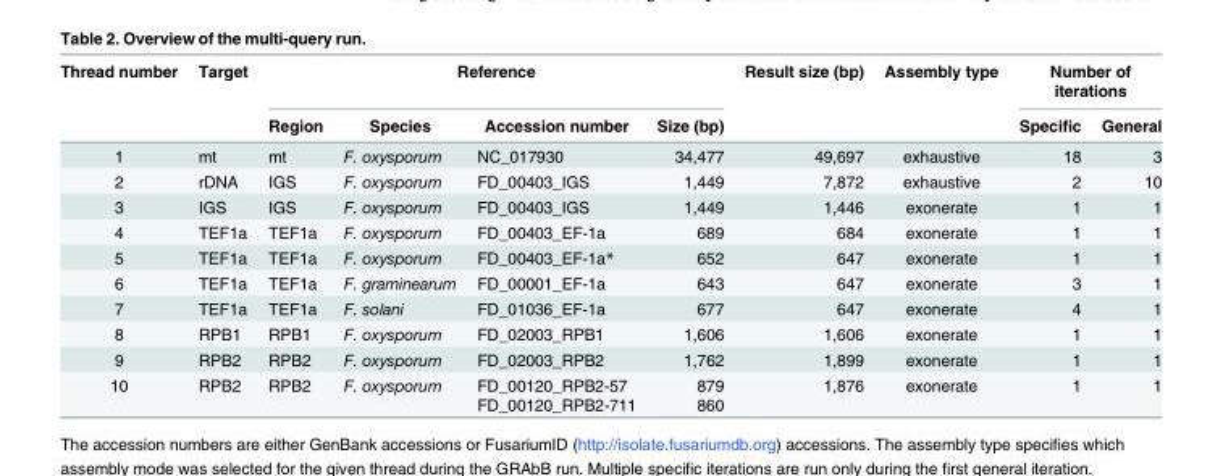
<table><thead><tr><td rowspan="2">Thread number</td><td rowspan="2">Target</td><td colspan="4">Reference</td><td rowspan="2">Result size (bp)</td><td rowspan="2">Assembly type</td><td colspan="2">Number of iterations</td></tr><tr><td>Region</td><td>Species</td><td>Accession number</td><td>Size (bp)</td><td>Specific</td><td>General</td></tr></thead><tbody><tr><td>1</td><td>mt</td><td>mt</td><td>F. oxysporum</td><td>NC_017930</td><td>34,477</td><td>49,697</td><td>exhaustive</td><td>18</td><td>3</td></tr><tr><td>2</td><td>rDNA</td><td>IGS</td><td>F. oxysporum</td><td>FD_00403_IGS</td><td>1,449</td><td>7,872</td><td>exhaustive</td><td>2</td><td>10</td></tr><tr><td>3</td><td>IGS</td><td>IGS</td><td>F. oxysporum</td><td>FD_00403_IGS</td><td>1,449</td><td>1,446</td><td>exonerate</td><td>1</td><td>1</td></tr><tr><td>4</td><td>TEF1a</td><td>TEF1a</td><td>F. oxysporum</td><td>FD_00403_EF-1a</td><td>689</td><td>684</td><td>exonerate</td><td>1</td><td>1</td></tr><tr><td>5</td><td>TEF1a</td><td>TEF1a</td><td>F. oxysporum</td><td>FD_00403_EF-1a*</td><td>652</td><td>647</td><td>exonerate</td><td>1</td><td>1</td></tr><tr><td>6</td><td>TEF1a</td><td>TEF1a</td><td>F. graminearum</td><td>FD_00001_EF-1a</td><td>643</td><td>647</td><td>exonerate</td><td>3</td><td>1</td></tr><tr><td>7</td><td>TEF1a</td><td>TEF1a</td><td>F. solani</td><td>FD_01036_EF-1a</td><td>677</td><td>647</td><td>exonerate</td><td>4</td><td>1</td></tr><tr><td>8</td><td>RPB1</td><td>RPB1</td><td>F. oxysporum</td><td>FD_02003_RPB1</td><td>1,606</td><td>1,606</td><td>exonerate</td><td>1</td><td>1</td></tr><tr><td>9</td><td>RPB2</td><td>RPB2</td><td>F. oxysporum</td><td>FD_02003_RPB2</td><td>1,762</td><td>1,899</td><td>exonerate</td><td>1</td><td>1</td></tr><tr><td>10</td><td>RPB2</td><td>RPB2</td><td>F. oxysporum</td><td>FD_00120_RPB2-57 FD_00120_RPB2-711</td><td>879 860</td><td>1,876</td><td>exonerate</td><td>1</td><td>1</td></tr></tbody></table>